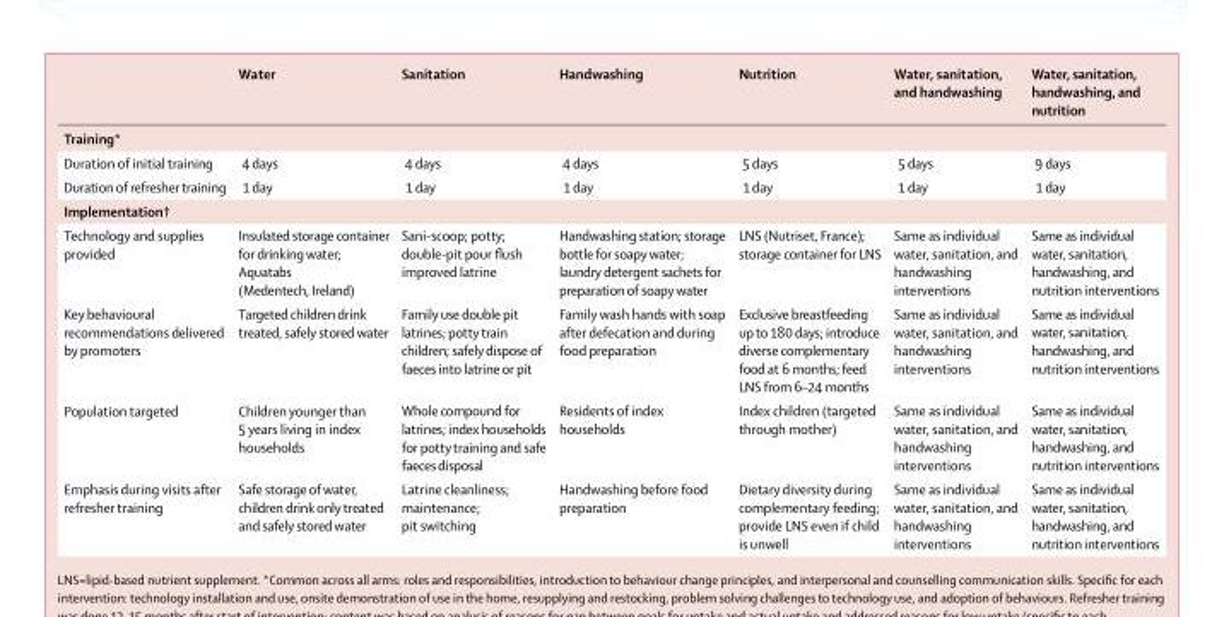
<table><thead><tr><td></td><td>Water</td><td>Sanitation</td><td>Handwashing</td><td>Nutrition</td><td>Water, sanitation, and handwashing</td><td>Water, sanitation, handwashing, and nutrition</td></tr></thead><tbody><tr><td colspan="7">Training*</td></tr><tr><td>Duration of initial training</td><td>4 days</td><td>4 days</td><td>4 days</td><td>5 days</td><td>5 days</td><td>9 days</td></tr><tr><td>Duration of refresher training</td><td>1 day</td><td>1 day</td><td>1 day</td><td>1 day</td><td>1 day</td><td>1 day</td></tr><tr><td colspan="7">Implementation†</td></tr><tr><td>Technology and supplies provided</td><td>Insulated storage container for drinking water; Aquatabs (Medentech, Ireland)</td><td>Sani-scoop; potty; double-pit pour flush improved latrine</td><td>Handwashing station; storage bottle for soapy water; laundry detergent sachets for preparation of soapy water</td><td>LNS (Nutriset, France); storage container for LNS</td><td>Same as individual water, sanitation, and handwashing interventions</td><td>Same as individual water, sanitation, handwashing, and nutrition interventions</td></tr><tr><td>Key behavioural recommendations delivered by promoters</td><td>Targeted children drink treated, safely stored water</td><td>Family use double pit latrines; potty train children; safely dispose of faeces into latrine or pit</td><td>Family wash hands with soap after defecation and during food preparation</td><td>Exclusive breastfeeding up to 180 days; introduce diverse complementary food at 6 months; feed LNS from 6–24 months</td><td>Same as individual water, sanitation, and handwashing interventions</td><td>Same as individual water, sanitation, handwashing, and nutrition interventions</td></tr><tr><td>Population targeted</td><td>Children younger than 5 years living in index households</td><td>Whole compound for latrines; index households for potty training and safe faeces disposal</td><td>Residents of index households</td><td>Index children (targeted through mother)</td><td>Same as individual water, sanitation, and handwashing interventions</td><td>Same as individual water, sanitation, handwashing, and nutrition interventions</td></tr><tr><td>Emphasis during visits after refresher training</td><td>Safe storage of water, children drink only treated and safely stored water</td><td>Latrine cleanliness; maintenance; pit switching</td><td>Handwashing before food preparation</td><td>Dietary diversity during complementary feeding; provide LNS even if child is unwell</td><td>Same as individual water, sanitation, and handwashing interventions</td><td>Same as individual water, sanitation, handwashing, and nutrition interventions</td></tr></tbody></table>